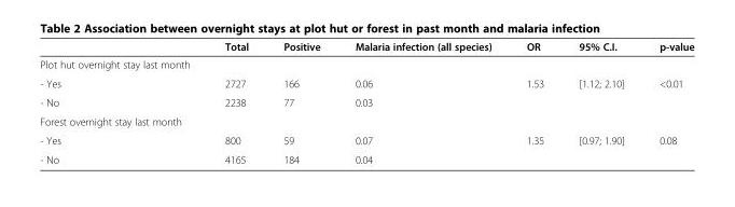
<table><thead><tr><td></td><td>Total</td><td>Positive</td><td>Malaria infection (all species)</td><td>OR</td><td>95% C.I.</td><td>p-value</td></tr></thead><tbody><tr><td colspan="7">Plot hut overnight stay last month</td></tr><tr><td>- Yes</td><td>2727</td><td>166</td><td>0.06</td><td>1.53</td><td>[1.12; 2.10]</td><td>&lt;0.01</td></tr><tr><td>- No</td><td>2238</td><td>77</td><td>0.03</td><td></td><td></td><td></td></tr><tr><td colspan="7">Forest overnight stay last month</td></tr><tr><td>- Yes</td><td>800</td><td>59</td><td>0.07</td><td>1.35</td><td>[0.97; 1.90]</td><td>0.08</td></tr><tr><td>- No</td><td>4165</td><td>184</td><td>0.04</td><td></td><td></td><td></td></tr></tbody></table>